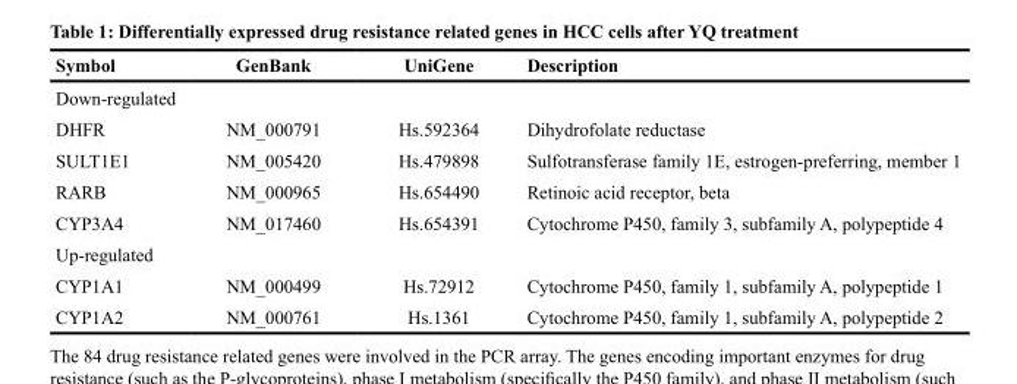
<table><thead><tr><td>Symbol</td><td>GenBank</td><td>UniGene</td><td>Description</td></tr></thead><tbody><tr><td colspan="4">Down-regulated</td></tr><tr><td>DHFR</td><td>NM_000791</td><td>Hs.592364</td><td>Dihydrofolate reductase</td></tr><tr><td>SULT1E1</td><td>NM_005420</td><td>Hs.479898</td><td>Sulfotransferase family 1E, estrogen-preferring, member 1</td></tr><tr><td>RARB</td><td>NM_000965</td><td>Hs.654490</td><td>Retinoic acid receptor, beta</td></tr><tr><td>CYP3A4</td><td>NM_017460</td><td>Hs.654391</td><td>Cytochrome P450, family 3, subfamily A, polypeptide 4</td></tr><tr><td colspan="4">Up-regulated</td></tr><tr><td>CYP1A1</td><td>NM_000499</td><td>Hs.72912</td><td>Cytochrome P450, family 1, subfamily A, polypeptide 1</td></tr><tr><td>CYP1A2</td><td>NM_000761</td><td>Hs.1361</td><td>Cytochrome P450, family 1, subfamily A, polypeptide 2</td></tr></tbody></table>